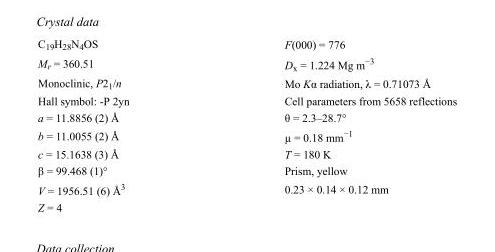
<table><tbody><tr><td>C<sub>19</sub>H<sub>28</sub>N<sub>4</sub>OS</td><td>F(000) = 776</td></tr><tr><td>M<sub>r</sub> = 360.51</td><td>D<sub>x</sub> = 1.224 Mg m<sup>−3</sup></td></tr><tr><td>Monoclinic, P2<sub>1</sub>/n</td><td>Mo Kα radiation, λ = 0.71073 Å</td></tr><tr><td>Hall symbol: -P 2yn</td><td>Cell parameters from 5658 reflections</td></tr><tr><td>a = 11.8856 (2) Å</td><td>θ = 2.3–28.7°</td></tr><tr><td>b = 11.0055 (2) Å</td><td>µ = 0.18 mm<sup>−1</sup></td></tr><tr><td>c = 15.1638 (3) Å</td><td>T = 180 K</td></tr><tr><td>β = 99.468 (1)°</td><td>Prism, yellow</td></tr><tr><td>V = 1956.51 (6) Å<sup>3</sup></td><td>0.23 × 0.14 × 0.12 mm</td></tr><tr><td>Z = 4</td><td></td></tr></tbody></table>